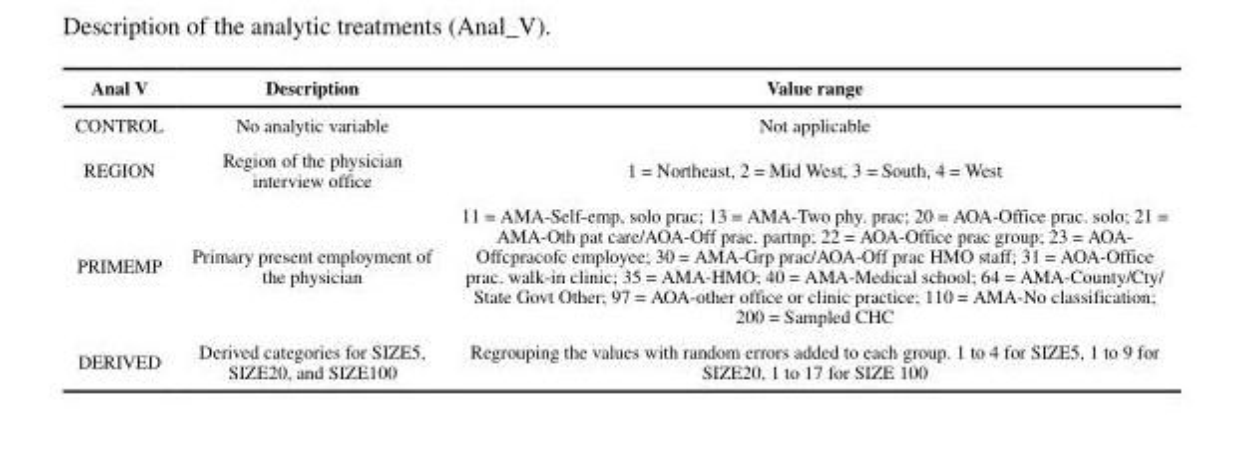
<table><thead><tr><td>Anal V</td><td>Description</td><td>Value range</td></tr></thead><tbody><tr><td>CONTROL</td><td>No analytic variable</td><td>Not applicable</td></tr><tr><td>REGION</td><td>Region of the physician interview office</td><td>1 = Northeast, 2 = Mid West, 3 = South, 4 = West</td></tr><tr><td>PRIMEMP</td><td>Primary present employment of the physician</td><td>11 = AMA-Self-emp, solo prac; 13 = AMA-Two phy. prac; 20 = AOA-Office prac. solo; 21 = AMA-Oth pat care/AOA-Off prac. partnp; 22 = AOA-Office prac group; 23 = AOA- Offcpracofc employee; 30 = AMA-Grp prac/AOA-Off prac HMO staff; 31 = AOA-Office prac. walk-in clinic; 35 = AMA-HMO; 40 = AMA-Medical school; 64 = AMA-County/Cty/ State Govt Other; 97 = AOA-other office or clinic practice; 110 = AMA-No classification; 200 = Sampled CHC</td></tr><tr><td>DERIVED</td><td>Derived categories for SIZE5, SIZE20, and SIZE100</td><td>Regrouping the values with random errors added to each group. 1 to 4 for SIZE5, 1 to 9 for SIZE20, 1 to 17 for SIZE 100</td></tr></tbody></table>